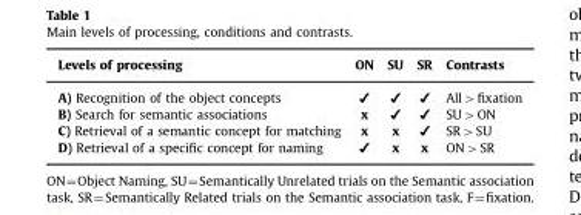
<table><thead><tr><td>Levels of processing</td><td>ON</td><td>SU</td><td>SR</td><td>Contrasts</td></tr></thead><tbody><tr><td>A) Recognition of the object concepts</td><td>✔</td><td>✔</td><td>✔</td><td>All&gt;fixation</td></tr><tr><td>B) Search for semantic associations</td><td>x</td><td>✔</td><td>✔</td><td>SU&gt;ON</td></tr><tr><td>C) Retrieval of a semantic concept for matching</td><td>x</td><td>x</td><td>✔</td><td>SR&gt;SU</td></tr><tr><td>D) Retrieval of a specific concept for naming</td><td>✔</td><td>x</td><td>x</td><td>ON&gt;SR</td></tr></tbody></table>